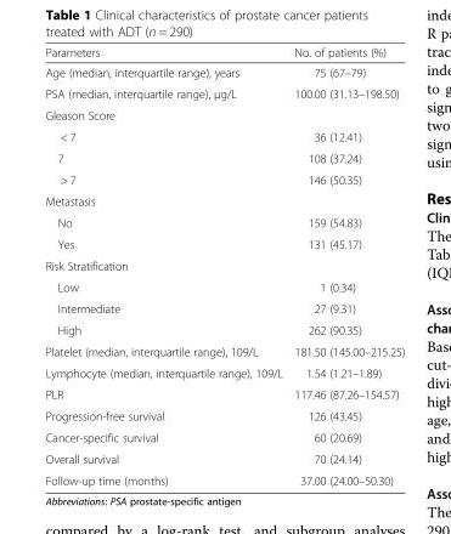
<table><thead><tr><td>Parameters</td><td>No. of patients (%)</td></tr></thead><tbody><tr><td>Age (median, interquartile range), years</td><td>75 (67–79)</td></tr><tr><td>PSA (median, interquartile range), μg/L</td><td>100.00 (31.13–198.50)</td></tr><tr><td colspan="2">Gleason Score</td></tr><tr><td>&lt; 7</td><td>36 (12.41)</td></tr><tr><td>7</td><td>108 (37.24)</td></tr><tr><td>&gt; 7</td><td>146 (50.35)</td></tr><tr><td colspan="2">Metastasis</td></tr><tr><td>No</td><td>159 (54.83)</td></tr><tr><td>Yes</td><td>131 (45.17)</td></tr><tr><td colspan="2">Risk Stratification</td></tr><tr><td>Low</td><td>1 (0.34)</td></tr><tr><td>Intermediate</td><td>27 (9.31)</td></tr><tr><td>High</td><td>262 (90.35)</td></tr><tr><td>Platelet (median, interquartile range), 109/L</td><td>181.50 (145.00–215.25)</td></tr><tr><td>Lymphocyte (median, interquartile range), 109/L</td><td>1.54 (1.21–1.89)</td></tr><tr><td>PLR</td><td>117.46 (87.26–154.57)</td></tr><tr><td>Progression-free survival</td><td>126 (43.45)</td></tr><tr><td>Cancer-specific survival</td><td>60 (20.69)</td></tr><tr><td>Overall survival</td><td>70 (24.14)</td></tr><tr><td>Follow-up time (months)</td><td>37.00 (24.00–50.30)</td></tr></tbody></table>